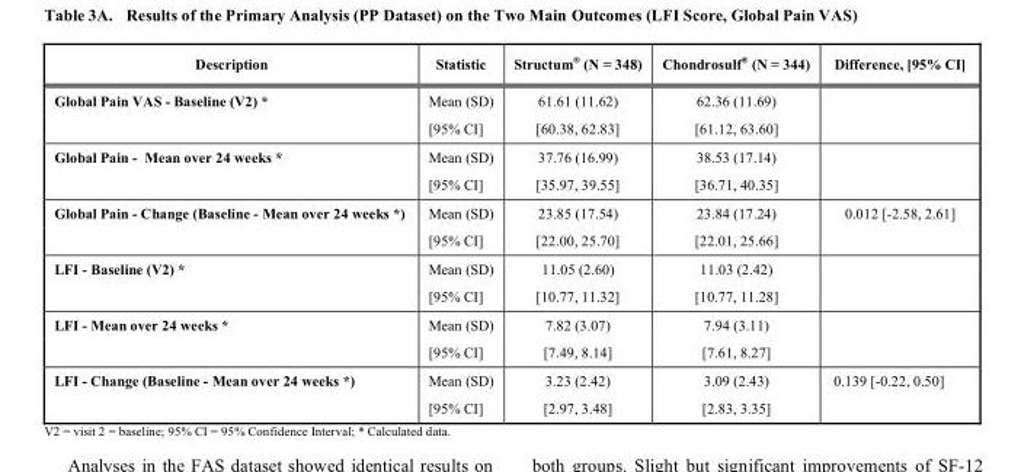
<table><thead><tr><td>Description</td><td>Statistic</td><td>Structum<sup>®</sup> (N = 348)</td><td>Chondrosulf<sup>®</sup> (N = 344)</td><td>Difference, [95% CI]</td></tr></thead><tbody><tr><td rowspan="2">Global Pain VAS - Baseline (V2) *</td><td>Mean (SD)</td><td>61.61 (11.62)</td><td>62.36 (11.69)</td><td></td></tr><tr><td>[95% CI]</td><td>[60.38, 62.83]</td><td>[61.12, 63.60]</td><td></td></tr><tr><td rowspan="2">Global Pain - Mean over 24 weeks *</td><td>Mean (SD)</td><td>37.76 (16.99)</td><td>38.53 (17.14)</td><td></td></tr><tr><td>[95% CI]</td><td>[35.97, 39.55]</td><td>[36.71, 40.35]</td><td></td></tr><tr><td rowspan="2">Global Pain - Change (Baseline - Mean over 24 weeks *)</td><td>Mean (SD)</td><td>23.85 (17.54)</td><td>23.84 (17.24)</td><td>0.012 [-2.58, 2.61]</td></tr><tr><td>[95% CI]</td><td>[22.00, 25.70]</td><td>[22.01, 25.66]</td><td></td></tr><tr><td rowspan="2">LFI - Baseline (V2) *</td><td>Mean (SD)</td><td>11.05 (2.60)</td><td>11.03 (2.42)</td><td></td></tr><tr><td>[95% CI]</td><td>[10.77, 11.32]</td><td>[10.77, 11.28]</td><td></td></tr><tr><td rowspan="2">LFI - Mean over 24 weeks *</td><td>Mean (SD)</td><td>7.82 (3.07)</td><td>7.94 (3.11)</td><td></td></tr><tr><td>[95% CI]</td><td>[7.49, 8.14]</td><td>[7.61, 8.27]</td><td></td></tr><tr><td rowspan="2">LFI - Change (Baseline - Mean over 24 weeks *)</td><td>Mean (SD)</td><td>3.23 (2.42)</td><td>3.09 (2.43)</td><td>0.139 [-0.22, 0.50]</td></tr><tr><td>[95% CI]</td><td>[2.97, 3.48]</td><td>[2.83, 3.35]</td><td></td></tr></tbody></table>